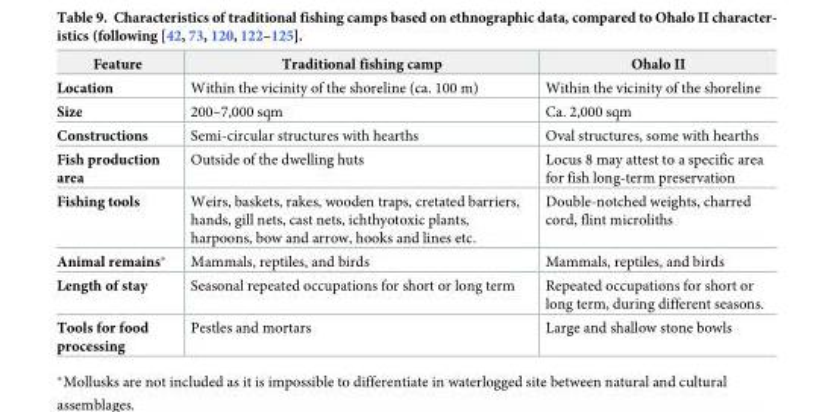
<table><thead><tr><td>Feature</td><td>Traditional fishing camp</td><td>Ohalo II</td></tr></thead><tbody><tr><td>Location</td><td>Within the vicinity of the shoreline (ca. 100 m)</td><td>Within the vicinity of the shoreline</td></tr><tr><td>Size</td><td>200–7,000 sqm</td><td>Ca. 2,000 sqm</td></tr><tr><td>Constructions</td><td>Semi-circular structures with hearths</td><td>Oval structures, some with hearths</td></tr><tr><td>Fish production area</td><td>Outside of the dwelling huts</td><td>Locus 8 may attest to a specific area for fish long-term preservation</td></tr><tr><td>Fishing tools</td><td>Weirs, baskets, rakes, wooden traps, cretated barriers, hands, gill nets, cast nets, ichthyotoxic plants, harpoons, bow and arrow, hooks and lines etc.</td><td>Double-notched weights, charred cord, flint microliths</td></tr><tr><td>Animal remains*</td><td>Mammals, reptiles, and birds</td><td>Mammals, reptiles, and birds</td></tr><tr><td>Length of stay</td><td>Seasonal repeated occupations for short or long term</td><td>Repeated occupations for short or long term, during different seasons.</td></tr><tr><td>Tools for food processing</td><td>Pestles and mortars</td><td>Large and shallow stone bowls</td></tr></tbody></table>